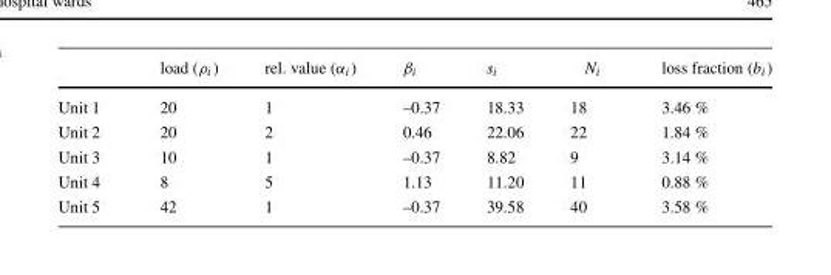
<table><thead><tr><td></td><td>load (ρ<sub>i</sub>)</td><td>rel. value (α<sub>i</sub>)</td><td>β<sub>i</sub></td><td>s<sub>i</sub></td><td>N<sub>i</sub></td><td>loss fraction (b<sub>i</sub>)</td></tr></thead><tbody><tr><td>Unit 1</td><td>20</td><td>1</td><td>–0.37</td><td>18.33</td><td>18</td><td>3.46 %</td></tr><tr><td>Unit 2</td><td>20</td><td>2</td><td>0.46</td><td>22.06</td><td>22</td><td>1.84 %</td></tr><tr><td>Unit 3</td><td>10</td><td>1</td><td>–0.37</td><td>8.82</td><td>9</td><td>3.14 %</td></tr><tr><td>Unit 4</td><td>8</td><td>5</td><td>1.13</td><td>11.20</td><td>11</td><td>0.88 %</td></tr><tr><td>Unit 5</td><td>42</td><td>1</td><td>–0.37</td><td>39.58</td><td>40</td><td>3.58 %</td></tr></tbody></table>